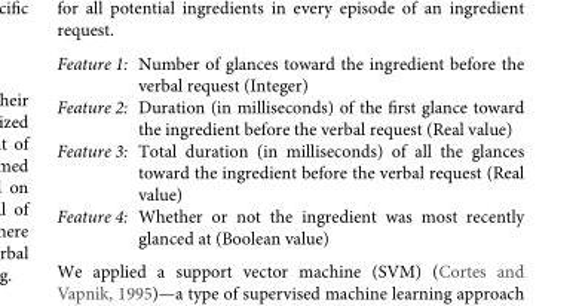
<table><tbody><tr><td>Feature 1:</td><td>Number of glances toward the ingredient before the verbal request (Integer)</td></tr><tr><td>Feature 2:</td><td>Duration (in milliseconds) of the first glance toward the ingredient before the verbal request (Real value)</td></tr><tr><td>Feature 3:</td><td>Total duration (in milliseconds) of all the glances toward the ingredient before the verbal request (Real value)</td></tr><tr><td>Feature 4:</td><td>Whether or not the ingredient was most recently glanced at (Boolean value)</td></tr></tbody></table>